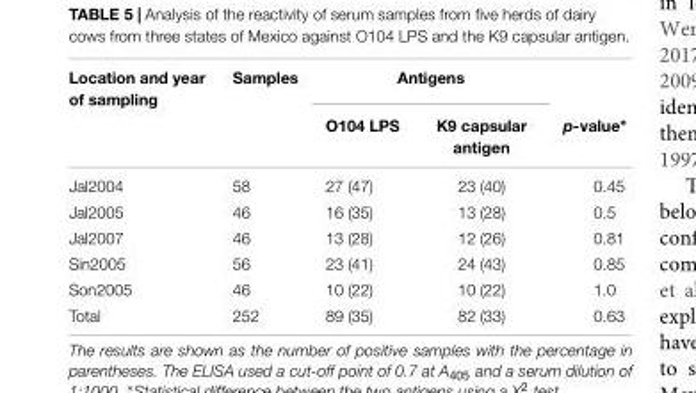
<table><thead><tr><td rowspan="2">Location and year of sampling</td><td rowspan="2">Samples</td><td colspan="2">Antigens</td><td rowspan="2">p-value∗</td></tr><tr><td>O104 LPS</td><td>K9 capsular antigen</td></tr></thead><tbody><tr><td>Jal2004</td><td>58</td><td>27 (47)</td><td>23 (40)</td><td>0.45</td></tr><tr><td>Jal2005</td><td>46</td><td>16 (35)</td><td>13 (28)</td><td>0.5</td></tr><tr><td>Jal2007</td><td>46</td><td>13 (28)</td><td>12 (26)</td><td>0.81</td></tr><tr><td>Sin2005</td><td>56</td><td>23 (41)</td><td>24 (43)</td><td>0.85</td></tr><tr><td>Son2005</td><td>46</td><td>10 (22)</td><td>10 (22)</td><td>1.0</td></tr><tr><td>Total</td><td>252</td><td>89 (35)</td><td>82 (33)</td><td>0.63</td></tr></tbody></table>